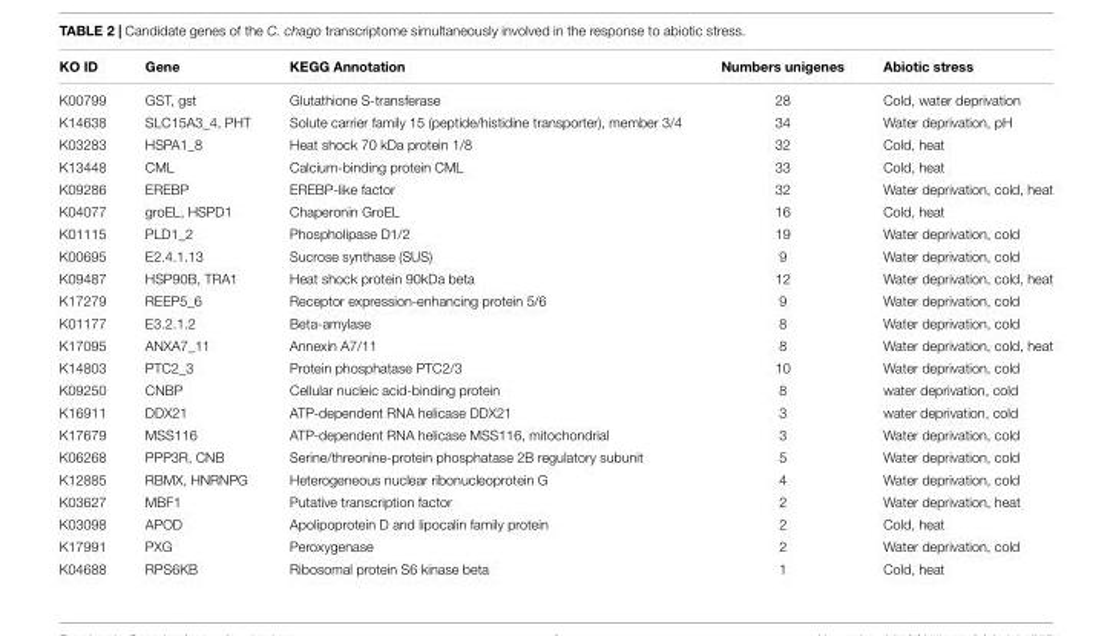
<table><thead><tr><td>KO ID</td><td>Gene</td><td>KEGG Annotation</td><td>Numbers unigenes</td><td>Abiotic stress</td></tr></thead><tbody><tr><td>K00799</td><td>GST, gst</td><td>Glutathione S-transferase</td><td>28</td><td>Cold, water deprivation</td></tr><tr><td>K14638</td><td>SLC15A3_4, PHT</td><td>Solute carrier family 15 (peptide/histidine transporter), member 3/4</td><td>34</td><td>Water deprivation, pH</td></tr><tr><td>K03283</td><td>HSPA1_8</td><td>Heat shock 70 kDa protein 1/8</td><td>32</td><td>Cold, heat</td></tr><tr><td>K13448</td><td>CML</td><td>Calcium-binding protein CML</td><td>33</td><td>Cold, heat</td></tr><tr><td>K09286</td><td>EREBP</td><td>EREBP-like factor</td><td>32</td><td>Water deprivation, cold, heat</td></tr><tr><td>K04077</td><td>groEL, HSPD1</td><td>Chaperonin GroEL</td><td>16</td><td>Cold, heat</td></tr><tr><td>K01115</td><td>PLD1_2</td><td>Phospholipase D1/2</td><td>19</td><td>Water deprivation, cold</td></tr><tr><td>K00695</td><td>E2.4.1.13</td><td>Sucrose synthase (SUS)</td><td>9</td><td>Water deprivation, cold</td></tr><tr><td>K09487</td><td>HSP90B, TRA1</td><td>Heat shock protein 90kDa beta</td><td>12</td><td>Water deprivation, cold, heat</td></tr><tr><td>K17279</td><td>REEP5_6</td><td>Receptor expression-enhancing protein 5/6</td><td>9</td><td>Water deprivation, cold</td></tr><tr><td>K01177</td><td>E3.2.1.2</td><td>Beta-amylase</td><td>8</td><td>Water deprivation, cold</td></tr><tr><td>K17095</td><td>ANXA7_11</td><td>Annexin A7/11</td><td>8</td><td>Water deprivation, cold, heat</td></tr><tr><td>K14803</td><td>PTC2_3</td><td>Protein phosphatase PTC2/3</td><td>10</td><td>Water deprivation, cold</td></tr><tr><td>K09250</td><td>CNBP</td><td>Cellular nucleic acid-binding protein</td><td>8</td><td>water deprivation, cold</td></tr><tr><td>K16911</td><td>DDX21</td><td>ATP-dependent RNA helicase DDX21</td><td>3</td><td>water deprivation, cold</td></tr><tr><td>K17679</td><td>MSS116</td><td>ATP-dependent RNA helicase MSS116, mitochondrial</td><td>3</td><td>Water deprivation, cold</td></tr><tr><td>K06268</td><td>PPP3R, CNB</td><td>Serine/threonine-protein phosphatase 2B regulatory subunit</td><td>5</td><td>Water deprivation, cold</td></tr><tr><td>K12885</td><td>RBMX, HNRNPG</td><td>Heterogeneous nuclear ribonucleoprotein G</td><td>4</td><td>Water deprivation, cold</td></tr><tr><td>K03627</td><td>MBF1</td><td>Putative transcription factor</td><td>2</td><td>Water deprivation, heat</td></tr><tr><td>K03098</td><td>APOD</td><td>Apolipoprotein D and lipocalin family protein</td><td>2</td><td>Cold, heat</td></tr><tr><td>K17991</td><td>PXG</td><td>Peroxygenase</td><td>2</td><td>Water deprivation, cold</td></tr><tr><td>K04688</td><td>RPS6KB</td><td>Ribosomal protein S6 kinase beta</td><td>1</td><td>Cold, heat</td></tr></tbody></table>